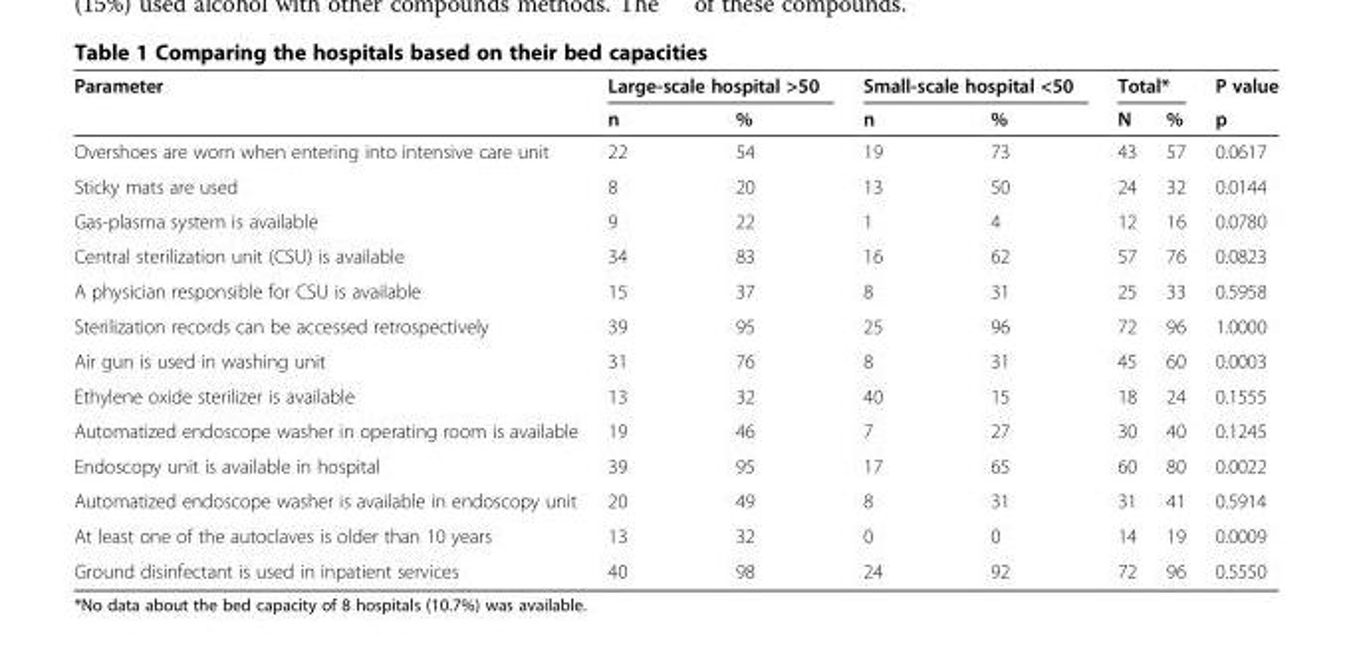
<table><thead><tr><td rowspan="2">Parameter</td><td colspan="2">Large-scale hospital &gt;50</td><td colspan="2">Small-scale hospital &lt;50</td><td colspan="2">Total*</td><td rowspan="2">P value p</td></tr><tr><td>n</td><td>%</td><td>n</td><td>%</td><td>N</td><td>%</td></tr></thead><tbody><tr><td>Overshoes are worn when entering into intensive care unit</td><td>22</td><td>54</td><td>19</td><td>73</td><td>43</td><td>57</td><td>0.0617</td></tr><tr><td>Sticky mats are used</td><td>8</td><td>20</td><td>13</td><td>50</td><td>24</td><td>32</td><td>0.0144</td></tr><tr><td>Gas-plasma system is available</td><td>9</td><td>22</td><td>1</td><td>4</td><td>12</td><td>16</td><td>0.0780</td></tr><tr><td>Central sterilization unit (CSU) is available</td><td>34</td><td>83</td><td>16</td><td>62</td><td>57</td><td>76</td><td>0.0823</td></tr><tr><td>A physician responsible for CSU is available</td><td>15</td><td>37</td><td>8</td><td>31</td><td>25</td><td>33</td><td>0.5958</td></tr><tr><td>Sterilization records can be accessed retrospectively</td><td>39</td><td>95</td><td>25</td><td>96</td><td>72</td><td>96</td><td>1.0000</td></tr><tr><td>Air gun is used in washing unit</td><td>31</td><td>76</td><td>8</td><td>31</td><td>45</td><td>60</td><td>0.0003</td></tr><tr><td>Ethylene oxide sterilizer is available</td><td>13</td><td>32</td><td>40</td><td>15</td><td>18</td><td>24</td><td>0.1555</td></tr><tr><td>Automatized endoscope washer in operating room is available</td><td>19</td><td>46</td><td>7</td><td>27</td><td>30</td><td>40</td><td>0.1245</td></tr><tr><td>Endoscopy unit is available in hospital</td><td>39</td><td>95</td><td>17</td><td>65</td><td>60</td><td>80</td><td>0.0022</td></tr><tr><td>Automatized endoscope washer is available in endoscopy unit</td><td>20</td><td>49</td><td>8</td><td>31</td><td>31</td><td>41</td><td>0.5914</td></tr><tr><td>At least one of the autoclaves is older than 10 years</td><td>13</td><td>32</td><td>0</td><td>0</td><td>14</td><td>19</td><td>0.0009</td></tr><tr><td>Ground disinfectant is used in inpatient services</td><td>40</td><td>98</td><td>24</td><td>92</td><td>72</td><td>96</td><td>0.5550</td></tr></tbody></table>